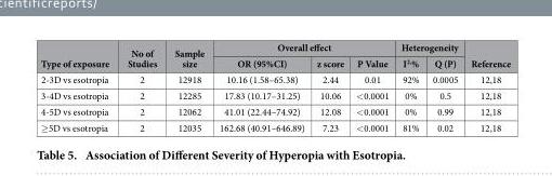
<table><thead><tr><td rowspan="2">Type of exposure</td><td rowspan="2">No of Studies</td><td rowspan="2">Sample size</td><td colspan="3">Overall effect</td><td colspan="2">Heterogeneity</td><td rowspan="2">Reference</td></tr><tr><td>OR (95%CI)</td><td>z score</td><td>P Value</td><td>I<sup>2,</sup>%</td><td>Q (P)</td></tr></thead><tbody><tr><td>2-3D vs esotropia</td><td>2</td><td>12918</td><td>10.16 (1.58–65.38)</td><td>2.44</td><td>0.01</td><td>92%</td><td>0.0005</td><td>12,18</td></tr><tr><td>3-4D vs esotropia</td><td>2</td><td>12285</td><td>17.83 (10.17–31.25)</td><td>10.06</td><td>&lt; 0.0001</td><td>0%</td><td>0.5</td><td>12,18</td></tr><tr><td>4-5D vs esotropia</td><td>2</td><td>12062</td><td>41.01 (22.44–74.92)</td><td>12.08</td><td>&lt; 0.0001</td><td>0%</td><td>0.99</td><td>12,18</td></tr><tr><td>≥ 5D vs esotropia</td><td>2</td><td>12035</td><td>162.68 (40.91–646.89)</td><td>7.23</td><td>&lt; 0.0001</td><td>81%</td><td>0.02</td><td>12,18</td></tr></tbody></table>